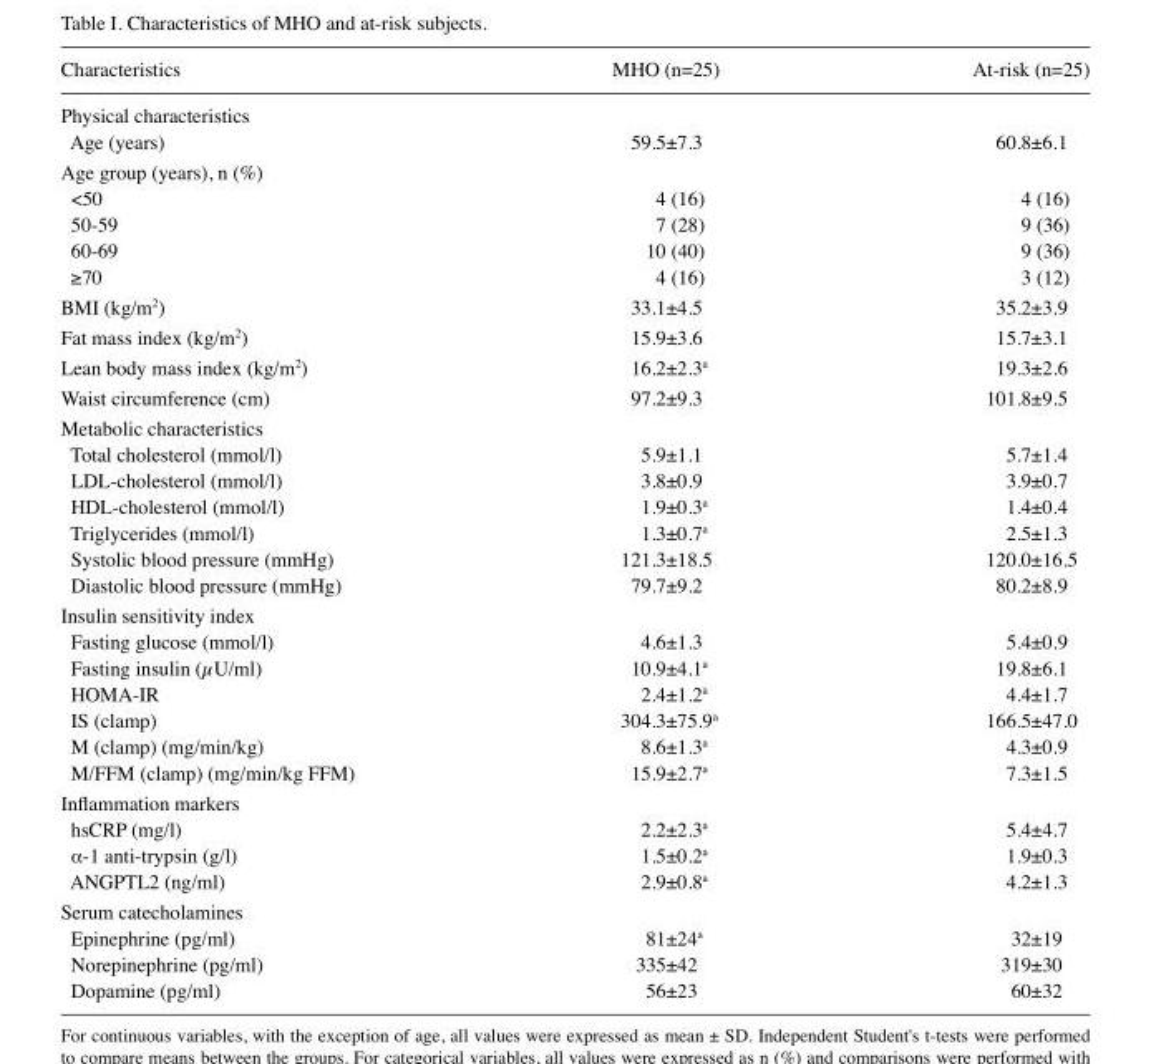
<table><thead><tr><td>Characteristics</td><td>MHO (n=25)</td><td>At-risk (n=25)</td></tr></thead><tbody><tr><td colspan="3">Physical characteristics</td></tr><tr><td>Age (years)</td><td>59.5±7.3</td><td>60.8±6.1</td></tr><tr><td colspan="3">Age group (years), n (%)</td></tr><tr><td>&lt;50</td><td>4 (16)</td><td>4 (16)</td></tr><tr><td>50-59</td><td>7 (28)</td><td>9 (36)</td></tr><tr><td>60-69</td><td>10 (40)</td><td>9 (36)</td></tr><tr><td>≥70</td><td>4 (16)</td><td>3 (12)</td></tr><tr><td>BMI (kg/m<sup>2</sup>)</td><td>33.1±4.5</td><td>35.2±3.9</td></tr><tr><td>Fat mass index (kg/m<sup>2</sup>)</td><td>15.9±3.6</td><td>15.7±3.1</td></tr><tr><td>Lean body mass index (kg/m<sup>2</sup>)</td><td>16.2±2.3<sup>a</sup></td><td>19.3±2.6</td></tr><tr><td>Waist circumference (cm)</td><td>97.2±9.3</td><td>101.8±9.5</td></tr><tr><td colspan="3">Metabolic characteristics</td></tr><tr><td>Total cholesterol (mmol/l)</td><td>5.9±1.1</td><td>5.7±1.4</td></tr><tr><td>LDL-cholesterol (mmol/l)</td><td>3.8±0.9</td><td>3.9±0.7</td></tr><tr><td>HDL-cholesterol (mmol/l)</td><td>1.9±0.3<sup>a</sup></td><td>1.4±0.4</td></tr><tr><td>Triglycerides (mmol/l)</td><td>1.3±0.7<sup>a</sup></td><td>2.5±1.3</td></tr><tr><td>Systolic blood pressure (mmHg)</td><td>121.3±18.5</td><td>120.0±16.5</td></tr><tr><td>Diastolic blood pressure (mmHg)</td><td>79.7±9.2</td><td>80.2±8.9</td></tr><tr><td colspan="3">Insulin sensitivity index</td></tr><tr><td>Fasting glucose (mmol/l)</td><td>4.6±1.3</td><td>5.4±0.9</td></tr><tr><td>Fasting insulin (µU/ml)</td><td>10.9±4.1<sup>a</sup></td><td>19.8±6.1</td></tr><tr><td>HOMA-IR</td><td>2.4±1.2<sup>a</sup></td><td>4.4±1.7</td></tr><tr><td>IS (clamp)</td><td>304.3±75.9<sup>a</sup></td><td>166.5±47.0</td></tr><tr><td>M (clamp) (mg/min/kg)</td><td>8.6±1.3<sup>a</sup></td><td>4.3±0.9</td></tr><tr><td>M/FFM (clamp) (mg/min/kg FFM)</td><td>15.9±2.7<sup>a</sup></td><td>7.3±1.5</td></tr><tr><td colspan="3">Inflammation markers</td></tr><tr><td>hsCRP (mg/l)</td><td>2.2±2.3<sup>a</sup></td><td>5.4±4.7</td></tr><tr><td>α-1 anti-trypsin (g/l)</td><td>1.5±0.2<sup>a</sup></td><td>1.9±0.3</td></tr><tr><td>ANGPTL2 (ng/ml)</td><td>2.9±0.8<sup>a</sup></td><td>4.2±1.3</td></tr><tr><td colspan="3">Serum catecholamines</td></tr><tr><td>Epinephrine (pg/ml)</td><td>81±24<sup>a</sup></td><td>32±19</td></tr><tr><td>Norepinephrine (pg/ml)</td><td>335±42</td><td>319±30</td></tr><tr><td>Dopamine (pg/ml)</td><td>56±23</td><td>60±32</td></tr></tbody></table>